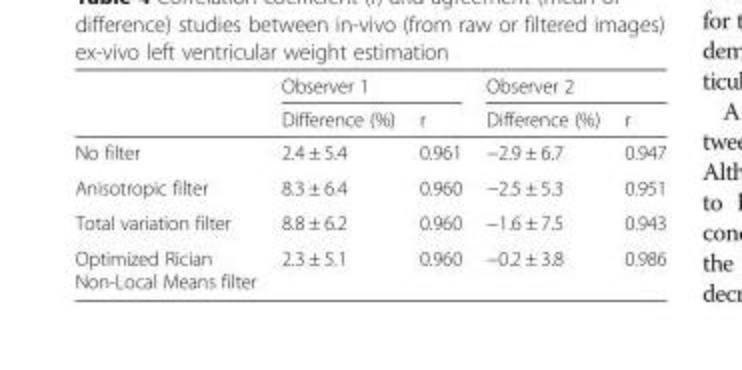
<table><thead><tr><td rowspan="2"></td><td colspan="2">Observer 1</td><td colspan="2">Observer 2</td></tr><tr><td>Difference (%)</td><td>r</td><td>Difference (%)</td><td>r</td></tr></thead><tbody><tr><td>No filter</td><td>2.4 ± 5.4</td><td>0.961</td><td>−2.9 ± 6.7</td><td>0.947</td></tr><tr><td>Anisotropic filter</td><td>8.3 ± 6.4</td><td>0.960</td><td>−2.5 ± 5.3</td><td>0.951</td></tr><tr><td>Total variation filter</td><td>8.8 ± 6.2</td><td>0.960</td><td>−1.6 ± 7.5</td><td>0.943</td></tr><tr><td>Optimized Rician Non-Local Means filter</td><td>2.3 ± 5.1</td><td>0.960</td><td>−0.2 ± 3.8</td><td>0.986</td></tr></tbody></table>